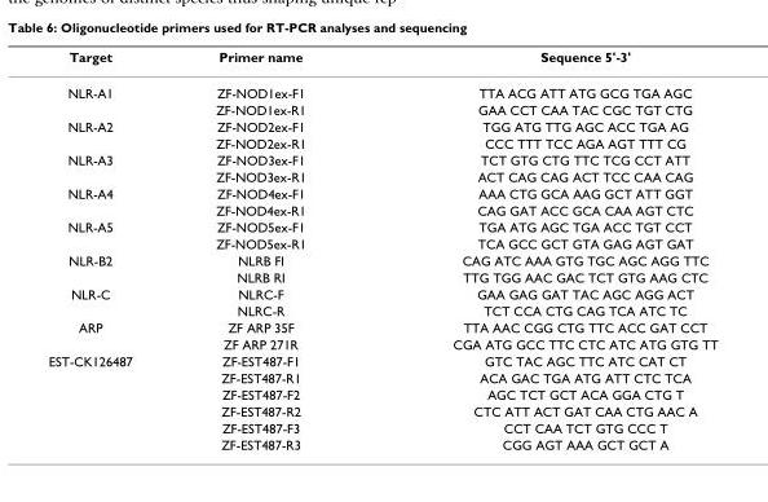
<table><thead><tr><td>Target</td><td>Primer name</td><td>Sequence 5&#x27;-3&#x27;</td></tr></thead><tbody><tr><td rowspan="2">NLR-A1</td><td>ZF-NOD1ex-F1</td><td>TTA ACG ATT ATG GCG TGA AGC</td></tr><tr><td>ZF-NOD1ex-R1</td><td>GAA CCT CAA TAC CGC TGT CTG</td></tr><tr><td rowspan="2">NLR-A2</td><td>ZF-NOD2ex-F1</td><td>TGG ATG TTG AGC ACC TGA AG</td></tr><tr><td>ZF-NOD2ex-R1</td><td>CCC TTT TCC AGA AGT TTT CG</td></tr><tr><td rowspan="2">NLR-A3</td><td>ZF-NOD3ex-F1</td><td>TCT GTG CTG TTC TCG CCT ATT</td></tr><tr><td>ZF-NOD3ex-R1</td><td>ACT CAG CAG ACT TCC CAA CAG</td></tr><tr><td rowspan="2">NLR-A4</td><td>ZF-NOD4ex-F1</td><td>AAA CTG GCA AAG GCT ATT GGT</td></tr><tr><td>ZF-NOD4ex-R1</td><td>CAG GAT ACC GCA CAA AGT CTC</td></tr><tr><td rowspan="2">NLR-A5</td><td>ZF-NOD5ex-F1</td><td>TGA ATG AGC TGA ACC TGT CCT</td></tr><tr><td>ZF-NOD5ex-R1</td><td>TCA GCC GCT GTA GAG AGT GAT</td></tr><tr><td rowspan="2">NLR-B2</td><td>NLRB FI</td><td>CAG ATC AAA GTG TGC AGC AGG TTC</td></tr><tr><td>NLRB RI</td><td>TTG TGG AAC GAC TCT GTG AAG CTC</td></tr><tr><td rowspan="2">NLR-C</td><td>NLRC-F</td><td>GAA GAG GAT TAC AGC AGG ACT</td></tr><tr><td>NLRC-R</td><td>TCT CCA CTG CAG TCA ATC TC</td></tr><tr><td rowspan="2">ARP</td><td>ZF ARP 35F</td><td>TTA AAC CGG CTG TTC ACC GAT CCT</td></tr><tr><td>ZF ARP 271R</td><td>CGA ATG GCC TTC CTC ATC ATG GTG TT</td></tr><tr><td rowspan="6">EST-CK126487</td><td>ZF-EST487-F1</td><td>GTC TAC AGC TTC ATC CAT CT</td></tr><tr><td>ZF-EST487-R1</td><td>ACA GAC TGA ATG ATT CTC TCA</td></tr><tr><td>ZF-EST487-F2</td><td>AGC TCT GCT ACA GGA CTG T</td></tr><tr><td>ZF-EST487-R2</td><td>CTC ATT ACT GAT CAA CTG AAC A</td></tr><tr><td>ZF-EST487-F3</td><td>CCT CAA TCT GTG CCC T</td></tr><tr><td>ZF-EST487-R3</td><td>CGG AGT AAA GCT GCT A</td></tr></tbody></table>